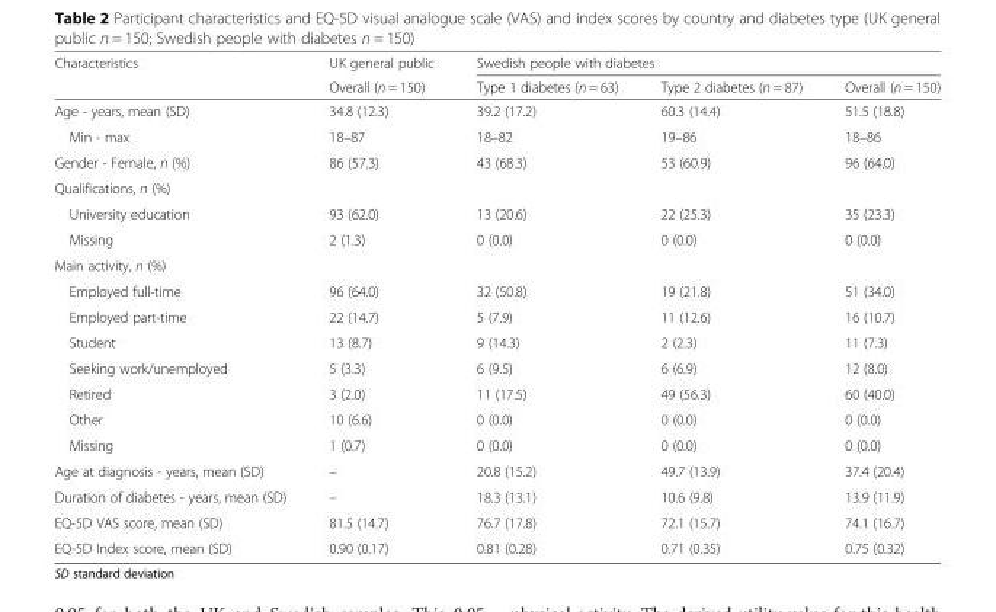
<table><thead><tr><td rowspan="2">Characteristics</td><td rowspan="2">UK general public Overall (n = 150)</td><td colspan="3">Swedish people with diabetes</td></tr><tr><td>Type 1 diabetes (n = 63)</td><td>Type 2 diabetes (n = 87)</td><td>Overall (n = 150)</td></tr></thead><tbody><tr><td>Age - years, mean (SD)</td><td>34.8 (12.3)</td><td>39.2 (17.2)</td><td>60.3 (14.4)</td><td>51.5 (18.8)</td></tr><tr><td>Min - max</td><td>18–87</td><td>18–82</td><td>19–86</td><td>18–86</td></tr><tr><td>Gender - Female, n (%)</td><td>86 (57.3)</td><td>43 (68.3)</td><td>53 (60.9)</td><td>96 (64.0)</td></tr><tr><td colspan="5">Qualifications, n (%)</td></tr><tr><td>University education</td><td>93 (62.0)</td><td>13 (20.6)</td><td>22 (25.3)</td><td>35 (23.3)</td></tr><tr><td>Missing</td><td>2 (1.3)</td><td>0 (0.0)</td><td>0 (0.0)</td><td>0 (0.0)</td></tr><tr><td colspan="5">Main activity, n (%)</td></tr><tr><td>Employed full-time</td><td>96 (64.0)</td><td>32 (50.8)</td><td>19 (21.8)</td><td>51 (34.0)</td></tr><tr><td>Employed part-time</td><td>22 (14.7)</td><td>5 (7.9)</td><td>11 (12.6)</td><td>16 (10.7)</td></tr><tr><td>Student</td><td>13 (8.7)</td><td>9 (14.3)</td><td>2 (2.3)</td><td>11 (7.3)</td></tr><tr><td>Seeking work/unemployed</td><td>5 (3.3)</td><td>6 (9.5)</td><td>6 (6.9)</td><td>12 (8.0)</td></tr><tr><td>Retired</td><td>3 (2.0)</td><td>11 (17.5)</td><td>49 (56.3)</td><td>60 (40.0)</td></tr><tr><td>Other</td><td>10 (6.6)</td><td>0 (0.0)</td><td>0 (0.0)</td><td>0 (0.0)</td></tr><tr><td>Missing</td><td>1 (0.7)</td><td>0 (0.0)</td><td>0 (0.0)</td><td>0 (0.0)</td></tr><tr><td>Age at diagnosis - years, mean (SD)</td><td>–</td><td>20.8 (15.2)</td><td>49.7 (13.9)</td><td>37.4 (20.4)</td></tr><tr><td>Duration of diabetes - years, mean (SD)</td><td>–</td><td>18.3 (13.1)</td><td>10.6 (9.8)</td><td>13.9 (11.9)</td></tr><tr><td>EQ-5D VAS score, mean (SD)</td><td>81.5 (14.7)</td><td>76.7 (17.8)</td><td>72.1 (15.7)</td><td>74.1 (16.7)</td></tr><tr><td>EQ-5D Index score, mean (SD)</td><td>0.90 (0.17)</td><td>0.81 (0.28)</td><td>0.71 (0.35)</td><td>0.75 (0.32)</td></tr></tbody></table>